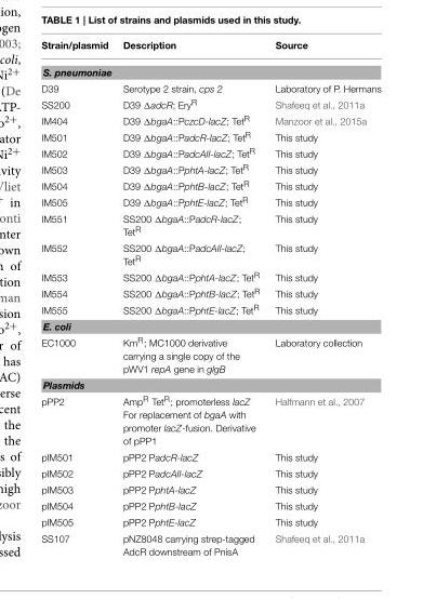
<table><thead><tr><td>Strain/plasmid</td><td>Description</td><td>Source</td></tr></thead><tbody><tr><td colspan="3">S. pneumoniae</td></tr><tr><td>D39</td><td>Serotype 2 strain, cps 2</td><td>Laboratory of P. Hermans</td></tr><tr><td>SS200</td><td>D39 ΔadcR; Ery<sup>R</sup></td><td>Shafeeq et al., 2011a</td></tr><tr><td>IM404</td><td>D39 ΔbgaA::PczcD-lacZ; Tet<sup>R</sup></td><td>Manzoor et al., 2015a</td></tr><tr><td>IM501</td><td>D39 ΔbgaA::PadcR-lacZ; Tet<sup>R</sup></td><td>This study</td></tr><tr><td>IM502</td><td>D39 ΔbgaA::PadcAII-lacZ; Tet<sup>R</sup></td><td>This study</td></tr><tr><td>IM503</td><td>D39 ΔbgaA::PphtA-lacZ; Tet<sup>R</sup></td><td>This study</td></tr><tr><td>IM504</td><td>D39 ΔbgaA::PphtB-lacZ; Tet<sup>R</sup></td><td>This study</td></tr><tr><td>IM505</td><td>D39 ΔbgaA::PphtE-lacZ; Tet<sup>R</sup></td><td>This study</td></tr><tr><td>IM551</td><td>SS200 ΔbgaA::PadcR-lacZ; Tet<sup>R</sup></td><td>This study</td></tr><tr><td>IM552</td><td>SS200 ΔbgaA::PadcAII-lacZ; Tet<sup>R</sup></td><td>This study</td></tr><tr><td>IM553</td><td>SS200 ΔbgaA::PphtA-lacZ; Tet<sup>R</sup></td><td>This study</td></tr><tr><td>IM554</td><td>SS200 ΔbgaA::PphtB-lacZ; Tet<sup>R</sup></td><td>This study</td></tr><tr><td>IM555</td><td>SS200 ΔbgaA::PphtE-lacZ; Tet<sup>R</sup></td><td>This study</td></tr><tr><td colspan="3">E. coli</td></tr><tr><td>EC1000</td><td>Km<sup>R</sup>; MC1000 derivative carrying a single copy of the pWV1 repA gene in glgB</td><td>Laboratory collection</td></tr><tr><td colspan="3">Plasmids</td></tr><tr><td>pPP2</td><td>Amp<sup>R</sup> Tet<sup>R</sup>; promoterless lacZ For replacement of bgaA with promoter lacZ-fusion. Derivative of pPP1</td><td>Halfmann et al., 2007</td></tr><tr><td>pIM501</td><td>pPP2 PadcR-lacZ</td><td>This study</td></tr><tr><td>pIM502</td><td>pPP2 PadcAII-lacZ</td><td>This study</td></tr><tr><td>pIM503</td><td>pPP2 PphtA-lacZ</td><td>This study</td></tr><tr><td>pIM504</td><td>pPP2 PphtB-lacZ</td><td>This study</td></tr><tr><td>pIM505</td><td>pPP2 PphtE-lacZ</td><td>This study</td></tr><tr><td>SS107</td><td>pNZ8048 carrying strep-tagged AdcR downstream of PnisA</td><td>Shafeeq et al., 2011a</td></tr></tbody></table>